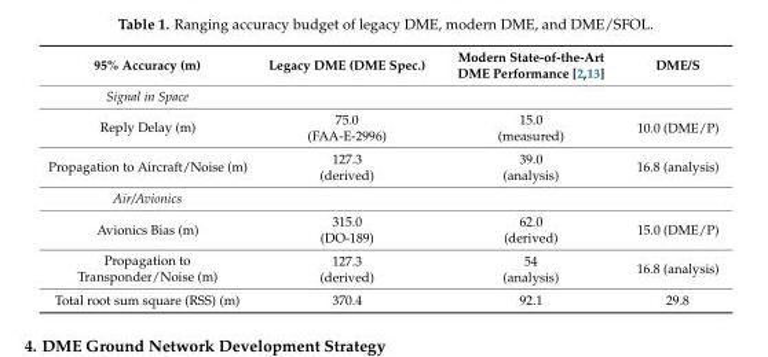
<table><thead><tr><td>95% Accuracy (m)</td><td>Legacy DME (DME Spec.)</td><td>Modern State-of-the-Art DME Performance [2,13]</td><td>DME/S</td></tr></thead><tbody><tr><td colspan="4">Signal in Space</td></tr><tr><td rowspan="2">Reply Delay (m)</td><td>75.0</td><td>15.0</td><td rowspan="2">10.0 (DME/P)</td></tr><tr><td>(FAA-E-2996)</td><td>(measured)</td></tr><tr><td rowspan="2">Propagation to Aircraft/Noise (m)</td><td>127.3</td><td>39.0</td><td rowspan="2">16.8 (analysis)</td></tr><tr><td>(derived)</td><td>(analysis)</td></tr><tr><td colspan="4">Air/Avionics</td></tr><tr><td rowspan="2">Avionics Bias (m)</td><td>315.0</td><td>62.0</td><td rowspan="2">15.0 (DME/P)</td></tr><tr><td>(DO-189)</td><td>(derived)</td></tr><tr><td rowspan="2">Propagation to Transponder/Noise (m)</td><td>127.3</td><td>54</td><td rowspan="2">16.8 (analysis)</td></tr><tr><td>(derived)</td><td>(analysis)</td></tr><tr><td>Total root sum square (RSS) (m)</td><td>370.4</td><td>92.1</td><td>29.8</td></tr></tbody></table>